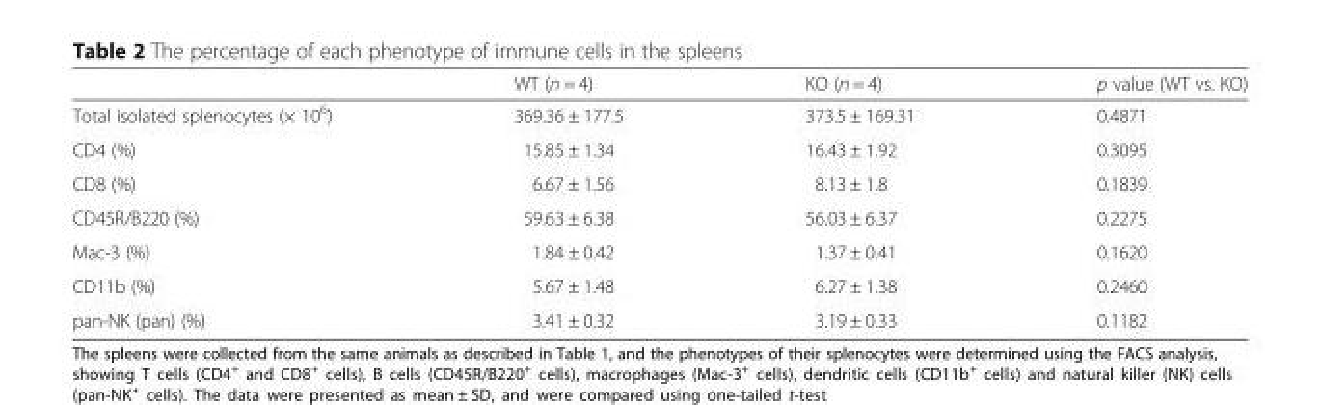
<table><thead><tr><td></td><td>WT (n = 4)</td><td>KO (n = 4)</td><td>p value (WT vs. KO)</td></tr></thead><tbody><tr><td>Total isolated splenocytes (× 10<sup>6</sup>)</td><td>369.36 ± 177.5</td><td>373.5 ± 169.31</td><td>0.4871</td></tr><tr><td>CD4 (%)</td><td>15.85 ± 1.34</td><td>16.43 ± 1.92</td><td>0.3095</td></tr><tr><td>CD8 (%)</td><td>6.67 ± 1.56</td><td>8.13 ± 1.8</td><td>0.1839</td></tr><tr><td>CD45R/B220 (%)</td><td>59.63 ± 6.38</td><td>56.03 ± 6.37</td><td>0.2275</td></tr><tr><td>Mac-3 (%)</td><td>1.84 ± 0.42</td><td>1.37 ± 0.41</td><td>0.1620</td></tr><tr><td>CD11b (%)</td><td>5.67 ± 1.48</td><td>6.27 ± 1.38</td><td>0.2460</td></tr><tr><td>pan-NK (pan) (%)</td><td>3.41 ± 0.32</td><td>3.19 ± 0.33</td><td>0.1182</td></tr></tbody></table>